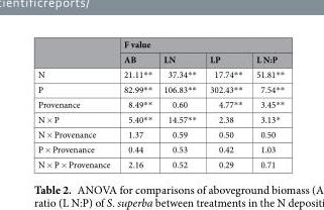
<table><thead><tr><td rowspan="2"></td><td colspan="4">F value</td></tr><tr><td>AB</td><td>LN</td><td>LP</td><td>L N:P</td></tr></thead><tbody><tr><td>N</td><td>21.11**</td><td>37.34**</td><td>17.74**</td><td>51.81**</td></tr><tr><td>P</td><td>82.99**</td><td>106.83**</td><td>302.43**</td><td>7.54**</td></tr><tr><td>Provenance</td><td>8.49**</td><td>0.60</td><td>4.77**</td><td>3.45**</td></tr><tr><td>N × P</td><td>5.40**</td><td>14.57**</td><td>2.38</td><td>3.13*</td></tr><tr><td>N × Provenance</td><td>1.37</td><td>0.59</td><td>0.50</td><td>0.50</td></tr><tr><td>P × Provenance</td><td>0.44</td><td>0.53</td><td>0.42</td><td>1.03</td></tr><tr><td>N × P × Provenance</td><td>2.16</td><td>0.52</td><td>0.29</td><td>0.71</td></tr></tbody></table>